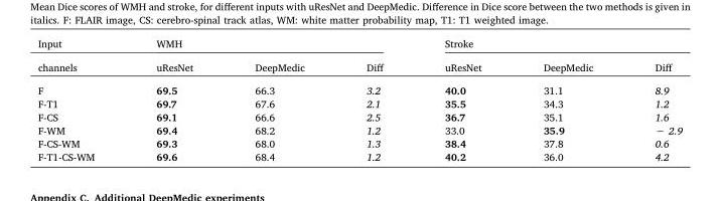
<table><thead><tr><td rowspan="2">Input channels</td><td colspan="3">WMH</td><td colspan="3">Stroke</td></tr><tr><td>uResNet</td><td>DeepMedic</td><td>Diff</td><td>uResNet</td><td>DeepMedic</td><td>Diff</td></tr></thead><tbody><tr><td>F</td><td>69.5</td><td>66.3</td><td>3.2</td><td>40.0</td><td>31.1</td><td>8.9</td></tr><tr><td>F-T1</td><td>69.7</td><td>67.6</td><td>2.1</td><td>35.5</td><td>34.3</td><td>1.2</td></tr><tr><td>F-CS</td><td>69.1</td><td>66.6</td><td>2.5</td><td>36.7</td><td>35.1</td><td>1.6</td></tr><tr><td>F-WM</td><td>69.4</td><td>68.2</td><td>1.2</td><td>33.0</td><td>35.9</td><td>− 2.9</td></tr><tr><td>F-CS-WM</td><td>69.3</td><td>68.0</td><td>1.3</td><td>38.4</td><td>37.8</td><td>0.6</td></tr><tr><td>F-T1-CS-WM</td><td>69.6</td><td>68.4</td><td>1.2</td><td>40.2</td><td>36.0</td><td>4.2</td></tr></tbody></table>